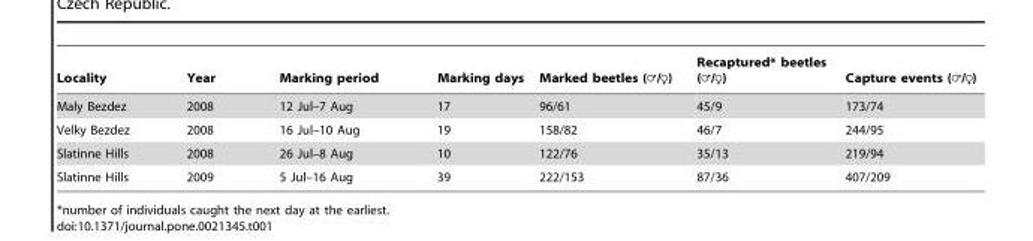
<table><thead><tr><td>Locality</td><td>Year</td><td>Marking period</td><td>Marking days</td><td>Marked beetles (=/R)</td><td>Recaptured* beetles (=/R)</td><td>Capture events (=/R)</td></tr></thead><tbody><tr><td>Maly Bezdez</td><td>2008</td><td>12 Jul–7 Aug</td><td>17</td><td>96/61</td><td>45/9</td><td>173/74</td></tr><tr><td>Velky Bezdez</td><td>2008</td><td>16 Jul–10 Aug</td><td>19</td><td>158/82</td><td>46/7</td><td>244/95</td></tr><tr><td>Slatinne Hills</td><td>2008</td><td>26 Jul–8 Aug</td><td>10</td><td>122/76</td><td>35/13</td><td>219/94</td></tr><tr><td>Slatinne Hills</td><td>2009</td><td>5 Jul–16 Aug</td><td>39</td><td>222/153</td><td>87/36</td><td>407/209</td></tr></tbody></table>